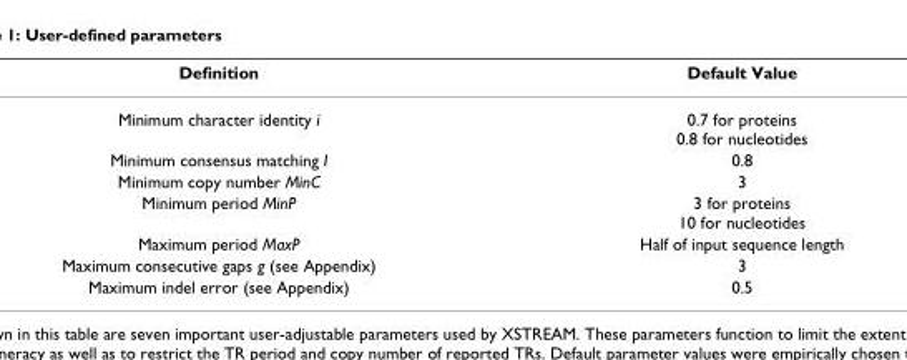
<table><thead><tr><td>Definition</td><td>Default Value</td></tr></thead><tbody><tr><td>Minimum character identity i</td><td>0.7 for proteins 0.8 for nucleotides</td></tr><tr><td>Minimum consensus matching I</td><td>0.8</td></tr><tr><td>Minimum copy number MinC</td><td>3</td></tr><tr><td>Minimum period MinP</td><td>3 for proteins 10 for nucleotides</td></tr><tr><td>Maximum period MaxP</td><td>Half of input sequence length</td></tr><tr><td>Maximum consecutive gaps g (see Appendix)</td><td>3</td></tr><tr><td>Maximum indel error (see Appendix)</td><td>0.5</td></tr></tbody></table>